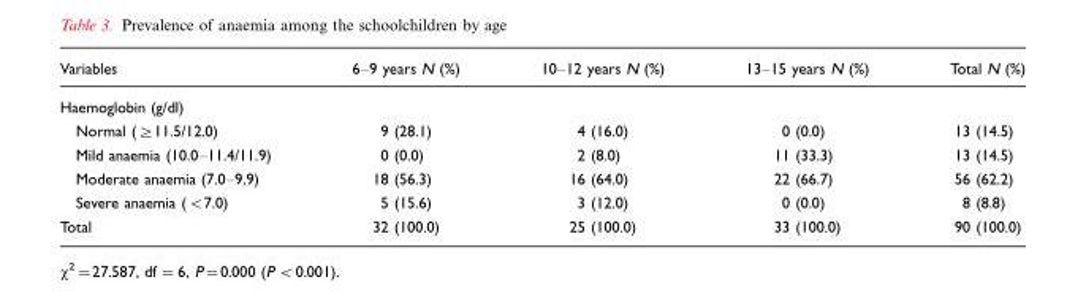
<table><thead><tr><td>Variables</td><td>6–9 years N (%)</td><td>10–12 years N (%)</td><td>13–15 years N (%)</td><td>Total N (%)</td></tr></thead><tbody><tr><td colspan="5">Haemoglobin (g/dl)</td></tr><tr><td>Normal (≥11.5/12.0)</td><td>9 (28.1)</td><td>4 (16.0)</td><td>0 (0.0)</td><td>13 (14.5)</td></tr><tr><td>Mild anaemia (10.0–11.4/11.9)</td><td>0 (0.0)</td><td>2 (8.0)</td><td>11 (33.3)</td><td>13 (14.5)</td></tr><tr><td>Moderate anaemia (7.0–9.9)</td><td>18 (56.3)</td><td>16 (64.0)</td><td>22 (66.7)</td><td>56 (62.2)</td></tr><tr><td>Severe anaemia (&lt;7.0)</td><td>5 (15.6)</td><td>3 (12.0)</td><td>0 (0.0)</td><td>8 (8.8)</td></tr><tr><td>Total</td><td>32 (100.0)</td><td>25 (100.0)</td><td>33 (100.0)</td><td>90 (100.0)</td></tr></tbody></table>